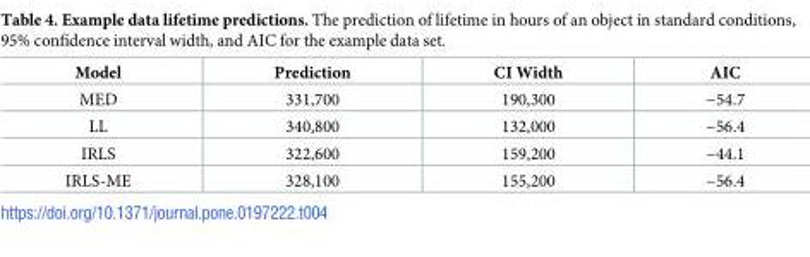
<table><thead><tr><td>Model</td><td>Prediction</td><td>CI Width</td><td>AIC</td></tr></thead><tbody><tr><td>MED</td><td>331,700</td><td>190,300</td><td>−54.7</td></tr><tr><td>LL</td><td>340,800</td><td>132,000</td><td>−56.4</td></tr><tr><td>IRLS</td><td>322,600</td><td>159,200</td><td>−44.1</td></tr><tr><td>IRLS-ME</td><td>328,100</td><td>155,200</td><td>−56.4</td></tr></tbody></table>